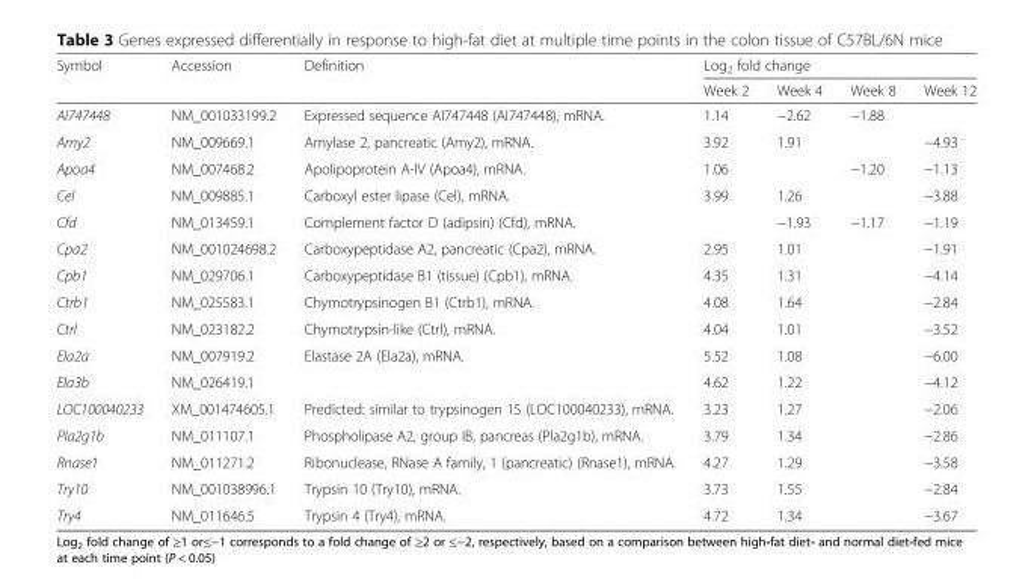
<table><thead><tr><td rowspan="2">Symbol</td><td rowspan="2">Accession</td><td rowspan="2">Definition</td><td colspan="4">Log<sub>2</sub> fold change</td></tr><tr><td>Week 2</td><td>Week 4</td><td>Week 8</td><td>Week 12</td></tr></thead><tbody><tr><td>AI747448</td><td>NM_001033199.2</td><td>Expressed sequence AI747448 (AI747448), mRNA.</td><td>1.14</td><td>−2.62</td><td>−1.88</td><td></td></tr><tr><td>Amy2</td><td>NM_009669.1</td><td>Amylase 2, pancreatic (Amy2), mRNA.</td><td>3.92</td><td>1.91</td><td></td><td>−4.93</td></tr><tr><td>Apoa4</td><td>NM_007468.2</td><td>Apolipoprotein A-IV (Apoa4), mRNA.</td><td>1.06</td><td></td><td>−1.20</td><td>−1.13</td></tr><tr><td>Cel</td><td>NM_009885.1</td><td>Carboxyl ester lipase (Cel), mRNA.</td><td>3.99</td><td>1.26</td><td></td><td>−3.88</td></tr><tr><td>Cfd</td><td>NM_013459.1</td><td>Complement factor D (adipsin) (Cfd), mRNA.</td><td></td><td>−1.93</td><td>−1.17</td><td>−1.19</td></tr><tr><td>Cpa2</td><td>NM_001024698.2</td><td>Carboxypeptidase A2, pancreatic (Cpa2), mRNA.</td><td>2.95</td><td>1.01</td><td></td><td>−1.91</td></tr><tr><td>Cpb1</td><td>NM_029706.1</td><td>Carboxypeptidase B1 (tissue) (Cpb1), mRNA.</td><td>4.35</td><td>1.31</td><td></td><td>−4.14</td></tr><tr><td>Ctrb1</td><td>NM_025583.1</td><td>Chymotrypsinogen B1 (Ctrb1), mRNA.</td><td>4.08</td><td>1.64</td><td></td><td>−2.84</td></tr><tr><td>Ctrl</td><td>NM_023182.2</td><td>Chymotrypsin-like (Ctrl), mRNA.</td><td>4.04</td><td>1.01</td><td></td><td>−3.52</td></tr><tr><td>Ela2a</td><td>NM_007919.2</td><td>Elastase 2A (Ela2a), mRNA.</td><td>5.52</td><td>1.08</td><td></td><td>−6.00</td></tr><tr><td>Ela3b</td><td>NM_026419.1</td><td></td><td>4.62</td><td>1.22</td><td></td><td>−4.12</td></tr><tr><td>LOC100040233</td><td>XM_001474605.1</td><td>Predicted: similar to trypsinogen 15 (LOC100040233), mRNA.</td><td>3.23</td><td>1.27</td><td></td><td>−2.06</td></tr><tr><td>Pla2g1b</td><td>NM_011107.1</td><td>Phospholipase A2, group IB, pancreas (Pla2g1b), mRNA.</td><td>3.79</td><td>1.34</td><td></td><td>−2.86</td></tr><tr><td>Rnase1</td><td>NM_011271.2</td><td>Ribonuclease, RNase A family, 1 (pancreatic) (Rnase1), mRNA.</td><td>4.27</td><td>1.29</td><td></td><td>−3.58</td></tr><tr><td>Try10</td><td>NM_001038996.1</td><td>Trypsin 10 (Try10), mRNA.</td><td>3.73</td><td>1.55</td><td></td><td>−2.84</td></tr><tr><td>Try4</td><td>NM_011646.5</td><td>Trypsin 4 (Try4), mRNA.</td><td>4.72</td><td>1.34</td><td></td><td>−3.67</td></tr></tbody></table>